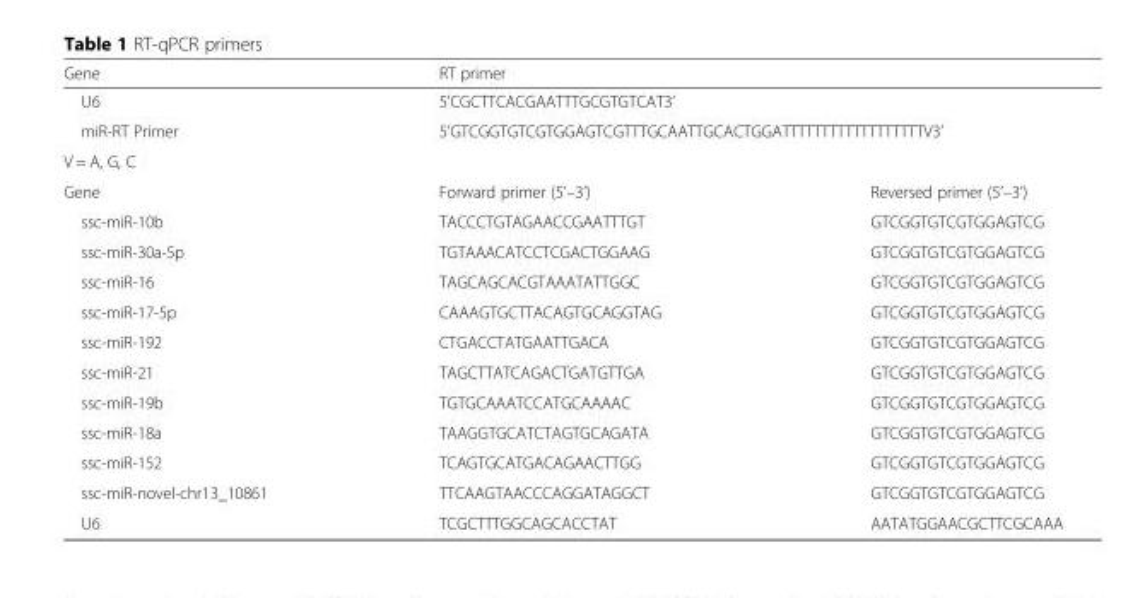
<table><thead><tr><td>Gene</td><td colspan="2">RT primer</td></tr></thead><tbody><tr><td>U6</td><td colspan="2">5’CGCTTCACGAATTTGCGTGTCAT3’</td></tr><tr><td>miR-RT Primer</td><td colspan="2">5’GTCGGTGTCGTGGAGTCGTTTGCAATTGCACTGGATTTTTTTTTTTTTTTTTTV3’</td></tr><tr><td colspan="3">V = A, G, C</td></tr><tr><td>Gene</td><td>Forward primer (5’–3’)</td><td>Reversed primer (5’–3’)</td></tr><tr><td>ssc-miR-10b</td><td>TACCCTGTAGAACCGAATTTGT</td><td>GTCGGTGTCGTGGAGTCG</td></tr><tr><td>ssc-miR-30a-5p</td><td>TGTAAACATCCTCGACTGGAAG</td><td>GTCGGTGTCGTGGAGTCG</td></tr><tr><td>ssc-miR-16</td><td>TAGCAGCACGTAAATATTGGC</td><td>GTCGGTGTCGTGGAGTCG</td></tr><tr><td>ssc-miR-17-5p</td><td>CAAAGTGCTTACAGTGCAGGTAG</td><td>GTCGGTGTCGTGGAGTCG</td></tr><tr><td>ssc-miR-192</td><td>CTGACCTATGAATTGACA</td><td>GTCGGTGTCGTGGAGTCG</td></tr><tr><td>ssc-miR-21</td><td>TAGCTTATCAGACTGATGTTGA</td><td>GTCGGTGTCGTGGAGTCG</td></tr><tr><td>ssc-miR-19b</td><td>TGTGCAAATCCATGCAAAAC</td><td>GTCGGTGTCGTGGAGTCG</td></tr><tr><td>ssc-miR-18a</td><td>TAAGGTGCATCTAGTGCAGATA</td><td>GTCGGTGTCGTGGAGTCG</td></tr><tr><td>ssc-miR-152</td><td>TCAGTGCATGACAGAACTTGG</td><td>GTCGGTGTCGTGGAGTCG</td></tr><tr><td>ssc-miR-novel-chr13_10861</td><td>TTCAAGTAACCCAGGATAGGCT</td><td>GTCGGTGTCGTGGAGTCG</td></tr><tr><td>U6</td><td>TCGCTTTGGCAGCACCTAT</td><td>AATATGGAACGCTTCGCAAA</td></tr></tbody></table>